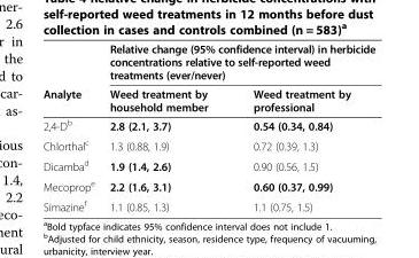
<table><thead><tr><td rowspan="2">Analyte</td><td colspan="2">Relative change (95% confidence interval) in herbicide concentrations relative to self-reported weed treatments (ever/never)</td></tr><tr><td>Weed treatment by household member</td><td>Weed treatment by professional</td></tr></thead><tbody><tr><td>2,4-D<sup>b</sup></td><td>2.8 (2.1, 3.7)</td><td>0.54 (0.34, 0.84)</td></tr><tr><td>Chlorthal<sup>c</sup></td><td>1.3 (0.88, 1.9)</td><td>0.72 (0.39, 1.3)</td></tr><tr><td>Dicamba<sup>d</sup></td><td>1.9 (1.4, 2.6)</td><td>0.90 (0.56, 1.5)</td></tr><tr><td>Mecoprop<sup>e</sup></td><td>2.2 (1.6, 3.1)</td><td>0.60 (0.37, 0.99)</td></tr><tr><td>Simazine<sup>f</sup></td><td>1.1 (0.85, 1.3)</td><td>1.1 (0.75, 1.5)</td></tr></tbody></table>